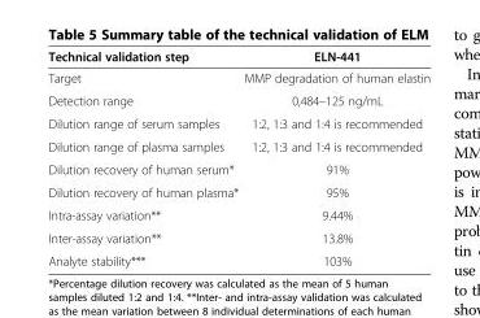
<table><thead><tr><td>Technical validation step</td><td>ELN-441</td></tr></thead><tbody><tr><td>Target</td><td>MMP degradation of human elastin</td></tr><tr><td>Detection range</td><td>0,484–125 ng/mL</td></tr><tr><td>Dilution range of serum samples</td><td>1:2, 1:3 and 1:4 is recommended</td></tr><tr><td>Dilution range of plasma samples</td><td>1:2, 1:3 and 1:4 is recommended</td></tr><tr><td>Dilution recovery of human serum*</td><td>91%</td></tr><tr><td>Dilution recovery of human plasma*</td><td>95%</td></tr><tr><td>Intra-assay variation**</td><td>9.44%</td></tr><tr><td>Inter-assay variation**</td><td>13.8%</td></tr><tr><td>Analyte stability***</td><td>103%</td></tr></tbody></table>